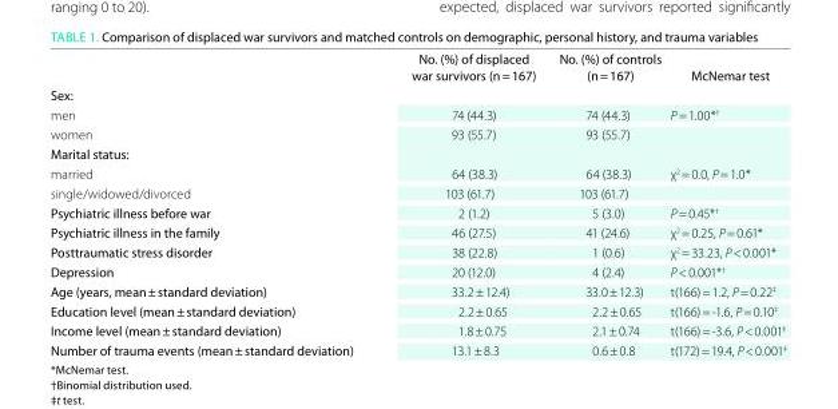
<table><thead><tr><td></td><td>No. (%) of displaced war survivors (n = 167)</td><td>No. (%) of controls (n = 167)</td><td>McNemar test</td></tr></thead><tbody><tr><td colspan="4">Sex:</td></tr><tr><td>men</td><td>74 (44.3)</td><td>74 (44.3)</td><td>P = 1.00*<sup>†</sup></td></tr><tr><td>women</td><td>93 (55.7)</td><td>93 (55.7)</td><td></td></tr><tr><td colspan="4">Marital status:</td></tr><tr><td>married</td><td>64 (38.3)</td><td>64 (38.3)</td><td>χ<sup>2</sup> = 0.0, P = 1.0*</td></tr><tr><td>single/widowed/divorced</td><td>103 (61.7)</td><td>103 (61.7)</td><td></td></tr><tr><td>Psychiatric illness before war</td><td>2 (1.2)</td><td>5 (3.0)</td><td>P = 0.45*<sup>†</sup></td></tr><tr><td>Psychiatric illness in the family</td><td>46 (27.5)</td><td>41 (24.6)</td><td>χ<sup>2</sup> = 0.25, P = 0.61*</td></tr><tr><td>Posttraumatic stress disorder</td><td>38 (22.8)</td><td>1 (0.6)</td><td>χ<sup>2</sup> = 33.23, P &lt; 0.001*</td></tr><tr><td>depression</td><td>20 (12.0)</td><td>4 (2.4)</td><td>P &lt; 0.001*<sup>†</sup></td></tr><tr><td>age (years, mean ± standard deviation)</td><td>33.2 ± 12.4)</td><td>33.0 ± 12.3)</td><td>t(166) = 1.2, P = 0.22<sup>‡</sup></td></tr><tr><td>Education level (mean ± standard deviation)</td><td>2.2 ± 0.65</td><td>2.2 ± 0.65</td><td>t(166) = -1.6, P = 0.10<sup>‡</sup></td></tr><tr><td>Income level (mean ± standard deviation)</td><td>1.8 ± 0.75</td><td>2.1 ± 0.74</td><td>t(166) = -3.6, P &lt; 0.001<sup>‡</sup></td></tr><tr><td>Number of trauma events (mean ± standard deviation)</td><td>13.1 ± 8.3</td><td>0.6 ± 0.8</td><td>t(172) = 19.4, P &lt; 0.001<sup>‡</sup></td></tr></tbody></table>